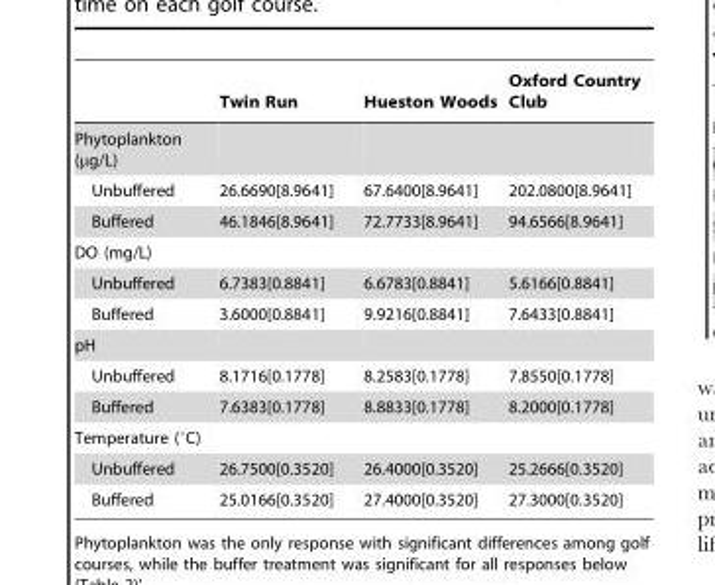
<table><thead><tr><td></td><td>Twin Run</td><td>Hueston Woods</td><td>Oxford Country Club</td></tr></thead><tbody><tr><td colspan="4">Phytoplankton (μg/L)</td></tr><tr><td>Unbuffered</td><td>26.6690[8.9641]</td><td>67.6400[8.9641]</td><td>202.0800[8.9641]</td></tr><tr><td>Buffered</td><td>46.1846[8.9641]</td><td>72.7733[8.9641]</td><td>94.6566[8.9641]</td></tr><tr><td colspan="4">DO (mg/L)</td></tr><tr><td>Unbuffered</td><td>6.7383[0.8841]</td><td>6.6783[0.8841]</td><td>5.6166[0.8841]</td></tr><tr><td>Buffered</td><td>3.6000[0.8841]</td><td>9.9216[0.8841]</td><td>7.6433[0.8841]</td></tr><tr><td colspan="4">pH</td></tr><tr><td>Unbuffered</td><td>8.1716[0.1778]</td><td>8.2583[0.1778]</td><td>7.8550[0.1778]</td></tr><tr><td>Buffered</td><td>7.6383[0.1778]</td><td>8.8833[0.1778]</td><td>8.2000[0.1778]</td></tr><tr><td colspan="4">Temperature (°C)</td></tr><tr><td>Unbuffered</td><td>26.7500[0.3520]</td><td>26.4000[0.3520]</td><td>25.2666[0.3520]</td></tr><tr><td>Buffered</td><td>25.0166[0.3520]</td><td>27.4000[0.3520]</td><td>27.3000[0.3520]</td></tr></tbody></table>